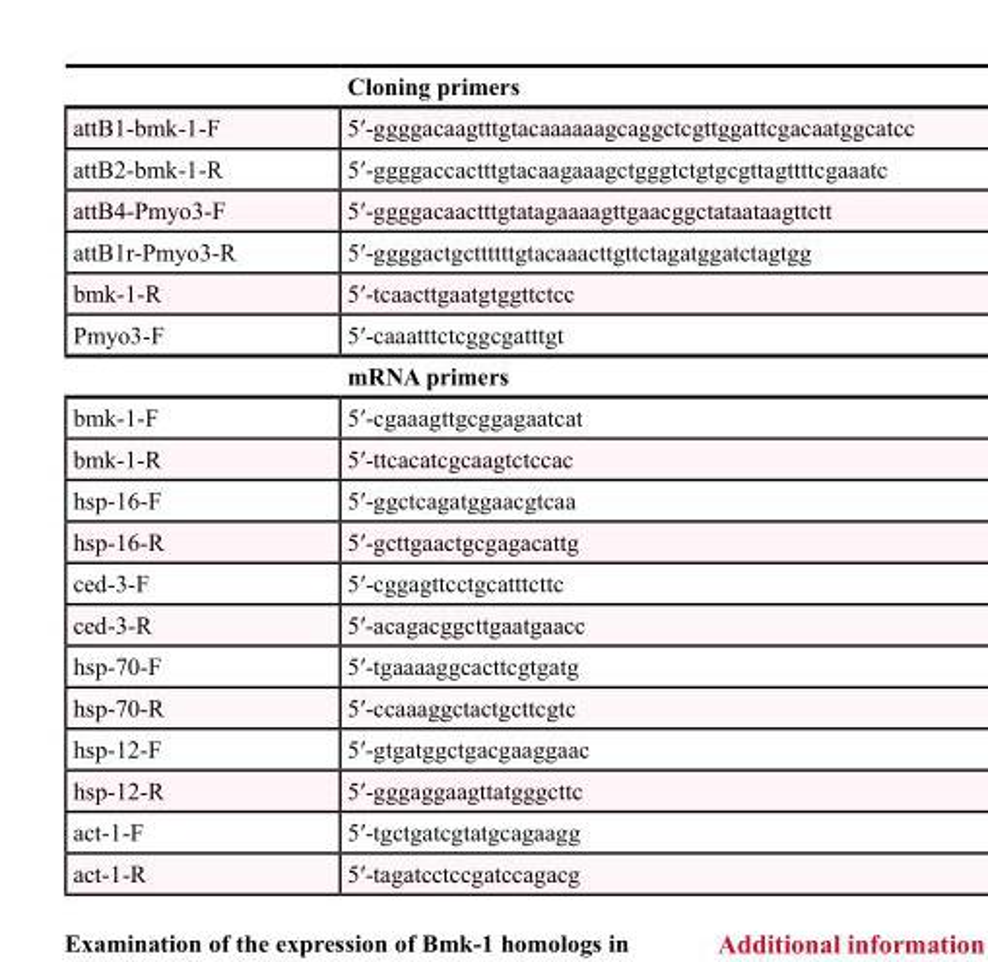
<table><thead><tr><td></td><td>Cloning primers</td></tr></thead><tbody><tr><td>attB1-bmk-1-F</td><td>5′-ggggacaagtttgtacaaaaaagcaggctcgttggattcgacaatggcatcc</td></tr><tr><td>attB2-bmk-1-R</td><td>5′-ggggaccactttgtacaagaaagctgggtctgtgcgttagttttcgaaatc</td></tr><tr><td>attB4-Pmyo3-F</td><td>5′-ggggacaactttgtatagaaaagttgaacggctataataagttctt</td></tr><tr><td>attB1r-Pmyo3-R</td><td>5′-ggggactgcttttttgtacaaacttgttctagatggatctagtgg</td></tr><tr><td>bmk-1-R</td><td>5′-tcaacttgaatgtggttctcc</td></tr><tr><td rowspan="2">Pmyo3-F</td><td>5′-caaatttctcggcgatttgt</td></tr><tr><td>mRNA primers</td></tr><tr><td>bmk-1-F</td><td>5′-cgaaagttgcggagaatcat</td></tr><tr><td>bmk-1-R</td><td>5′-ttcacatcgcaagtctccac</td></tr><tr><td>hsp-16-F</td><td>5′-ggctcagatggaacgtcaa</td></tr><tr><td>hsp-16-R</td><td>5′-gcttgaactgcgagacattg</td></tr><tr><td>ced-3-F</td><td>5′-cggagttcctgcatttcttc</td></tr><tr><td>ced-3-R</td><td>5′-acagacggcttgaatgaacc</td></tr><tr><td>hsp-70-F</td><td>5′-tgaaaaggcacttcgtgatg</td></tr><tr><td>hsp-70-R</td><td>5′-ccaaaggctactgcttcgtc</td></tr><tr><td>hsp-12-F</td><td>5′-gtgatggctgacgaaggaac</td></tr><tr><td>hsp-12-R</td><td>5′-gggaggaagttatgggcttc</td></tr><tr><td>act-1-F</td><td>5′-tgctgatcgtatgcagaagg</td></tr><tr><td>act-1-R</td><td>5′-tagatcctccgatccagacg</td></tr></tbody></table>